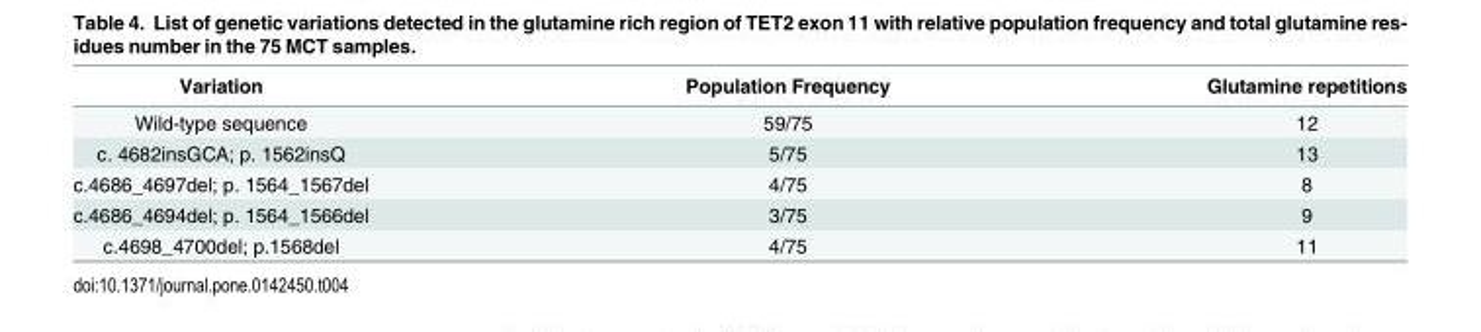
<table><thead><tr><td>Variation</td><td>Population Frequency</td><td>Glutamine repetitions</td></tr></thead><tbody><tr><td>Wild-type sequence</td><td>59/75</td><td>12</td></tr><tr><td>c. 4682insGCA; p. 1562insQ</td><td>5/75</td><td>13</td></tr><tr><td>c.4686_4697del; p. 1564_1567del</td><td>4/75</td><td>8</td></tr><tr><td>c.4686_4694del; p. 1564_1566del</td><td>3/75</td><td>9</td></tr><tr><td>c.4698_4700del; p.1568del</td><td>4/75</td><td>11</td></tr></tbody></table>